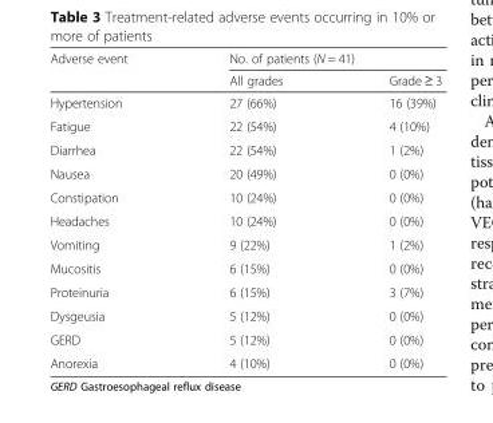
<table><thead><tr><td rowspan="2">Adverse event</td><td colspan="2">No. of patients (N = 41)</td></tr><tr><td>All grades</td><td>Grade ≥ 3</td></tr></thead><tbody><tr><td>Hypertension</td><td>27 (66%)</td><td>16 (39%)</td></tr><tr><td>Fatigue</td><td>22 (54%)</td><td>4 (10%)</td></tr><tr><td>Diarrhea</td><td>22 (54%)</td><td>1 (2%)</td></tr><tr><td>Nausea</td><td>20 (49%)</td><td>0 (0%)</td></tr><tr><td>Constipation</td><td>10 (24%)</td><td>0 (0%)</td></tr><tr><td>Headaches</td><td>10 (24%)</td><td>0 (0%)</td></tr><tr><td>Vomiting</td><td>9 (22%)</td><td>1 (2%)</td></tr><tr><td>Mucositis</td><td>6 (15%)</td><td>0 (0%)</td></tr><tr><td>Proteinuria</td><td>6 (15%)</td><td>3 (7%)</td></tr><tr><td>Dysgeusia</td><td>5 (12%)</td><td>0 (0%)</td></tr><tr><td>GERD</td><td>5 (12%)</td><td>0 (0%)</td></tr><tr><td>Anorexia</td><td>4 (10%)</td><td>0 (0%)</td></tr></tbody></table>